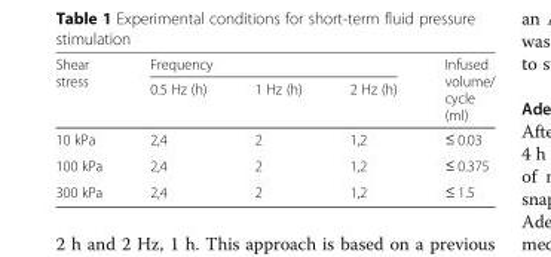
<table><thead><tr><td rowspan="2">Shear stress</td><td colspan="3">Frequency</td><td rowspan="2">Infused volume/ cycle (ml)</td></tr><tr><td>0.5 Hz (h)</td><td>1 Hz (h)</td><td>2 Hz (h)</td></tr></thead><tbody><tr><td>10 kPa</td><td>2,4</td><td>2</td><td>1,2</td><td>≤ 0.03</td></tr><tr><td>100 kPa</td><td>2,4</td><td>2</td><td>1,2</td><td>≤ 0.375</td></tr><tr><td>300 kPa</td><td>2,4</td><td>2</td><td>1,2</td><td>≤ 1.5</td></tr></tbody></table>